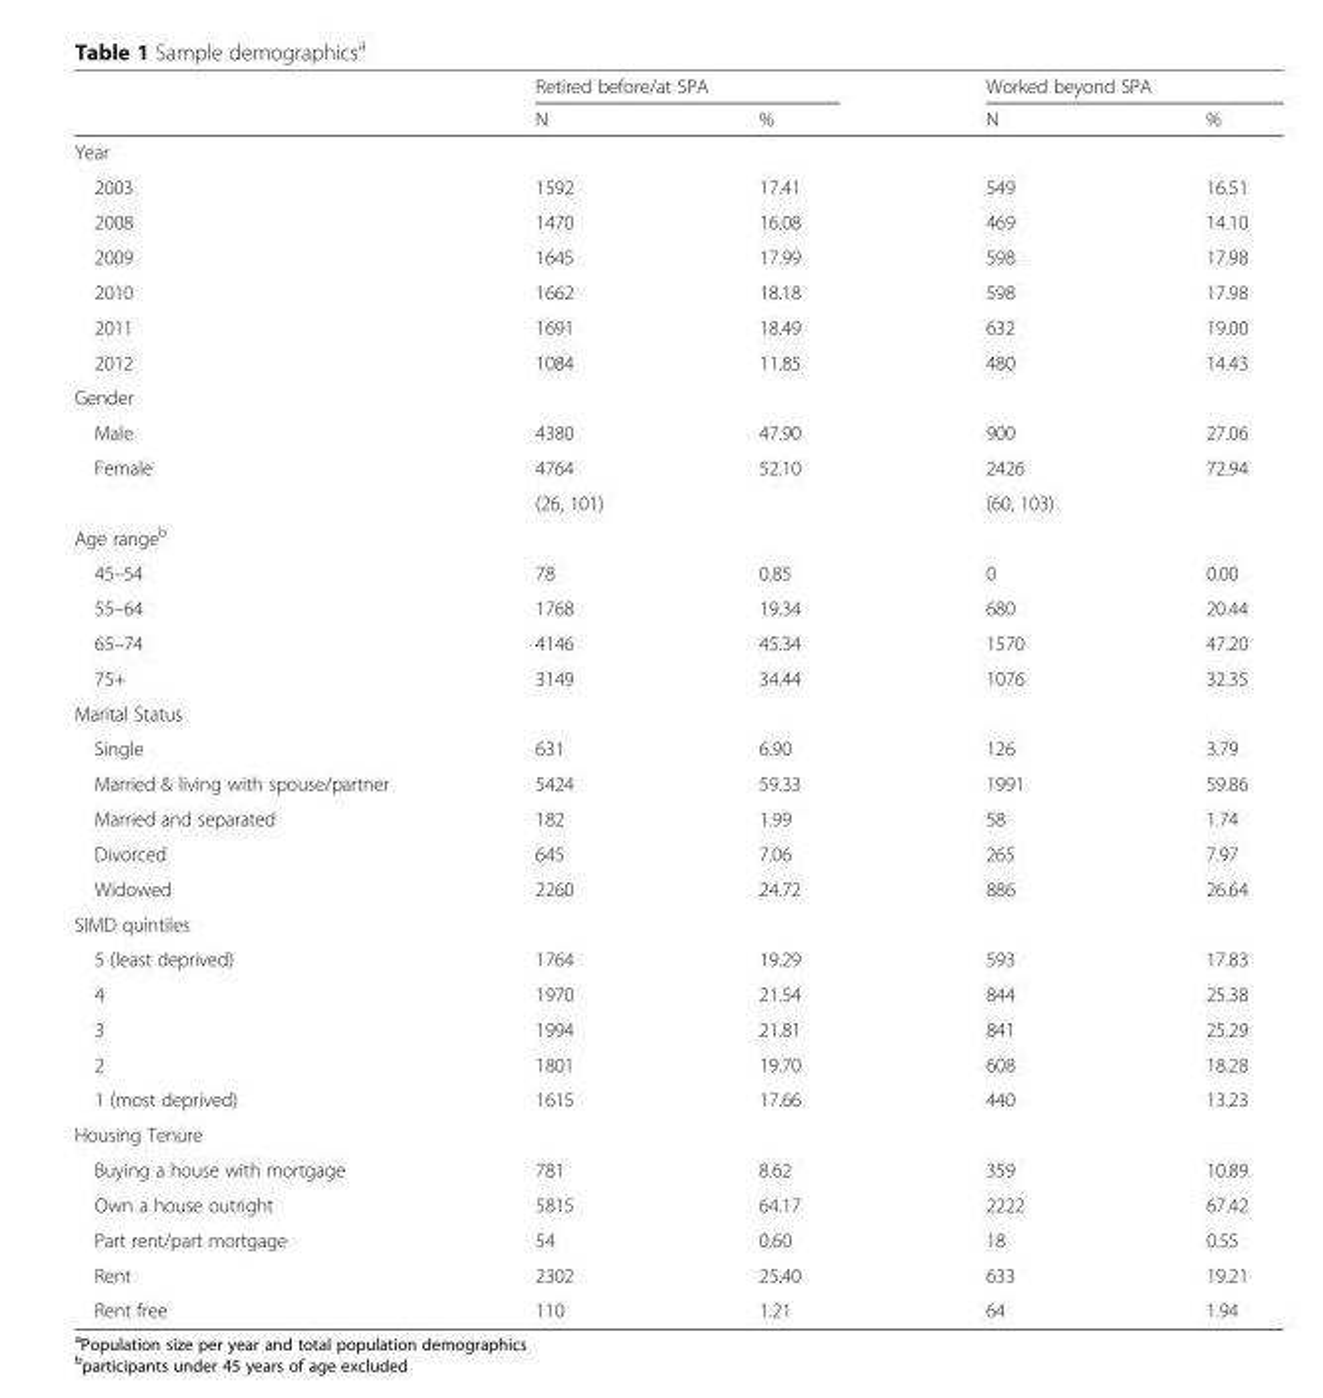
<table><thead><tr><td rowspan="2"></td><td colspan="2">Retired before/at SPA</td><td colspan="2">Worked beyond SPA</td></tr><tr><td>N</td><td>%</td><td>N</td><td>%</td></tr></thead><tbody><tr><td colspan="5">Year</td></tr><tr><td>2003</td><td>1592</td><td>17.41</td><td>549</td><td>16.51</td></tr><tr><td>2008</td><td>1470</td><td>16.08</td><td>469</td><td>14.10</td></tr><tr><td>2009</td><td>1645</td><td>17.99</td><td>598</td><td>17.98</td></tr><tr><td>2010</td><td>1662</td><td>18.18</td><td>598</td><td>17.98</td></tr><tr><td>2011</td><td>1691</td><td>18.49</td><td>632</td><td>19.00</td></tr><tr><td>2012</td><td>1084</td><td>11.85</td><td>480</td><td>14.43</td></tr><tr><td colspan="5">Gender</td></tr><tr><td>Male</td><td>4380</td><td>47.90</td><td>900</td><td>27.06</td></tr><tr><td rowspan="2">Female</td><td>4764</td><td>52.10</td><td>2426</td><td>72.94</td></tr><tr><td colspan="2">(26, 101)</td><td colspan="2">(60, 103)</td></tr><tr><td colspan="5">Age range<sup>b</sup></td></tr><tr><td>45–54</td><td>78</td><td>0.85</td><td>0</td><td>0.00</td></tr><tr><td>55–64</td><td>1768</td><td>19.34</td><td>680</td><td>20.44</td></tr><tr><td>65–74</td><td>4146</td><td>45.34</td><td>1570</td><td>47.20</td></tr><tr><td>75+</td><td>3149</td><td>34.44</td><td>1076</td><td>32.35</td></tr><tr><td colspan="5">Marital Status</td></tr><tr><td>Single</td><td>631</td><td>6.90</td><td>126</td><td>3.79</td></tr><tr><td>Married &amp; living with spouse/partner</td><td>5424</td><td>59.33</td><td>1991</td><td>59.86</td></tr><tr><td>Married and separated</td><td>182</td><td>1.99</td><td>58</td><td>1.74</td></tr><tr><td>Divorced</td><td>645</td><td>7.06</td><td>265</td><td>7.97</td></tr><tr><td>Widowed</td><td>2260</td><td>24.72</td><td>886</td><td>26.64</td></tr><tr><td colspan="5">SIMD quintiles</td></tr><tr><td>5 (least deprived)</td><td>1764</td><td>19.29</td><td>593</td><td>17.83</td></tr><tr><td>4</td><td>1970</td><td>21.54</td><td>844</td><td>25.38</td></tr><tr><td>3</td><td>1994</td><td>21.81</td><td>841</td><td>25.29</td></tr><tr><td>2</td><td>1801</td><td>19.70</td><td>608</td><td>18.28</td></tr><tr><td>1 (most deprived)</td><td>1615</td><td>17.66</td><td>440</td><td>13.23</td></tr><tr><td colspan="5">Housing Tenure</td></tr><tr><td>Buying a house with mortgage</td><td>781</td><td>8.62</td><td>359</td><td>10.89</td></tr><tr><td>Own a house outright</td><td>5815</td><td>64.17</td><td>2222</td><td>67.42</td></tr><tr><td>Part rent/part mortgage</td><td>54</td><td>0.60</td><td>18</td><td>0.55</td></tr><tr><td>Rent</td><td>2302</td><td>25.40</td><td>633</td><td>19.21</td></tr><tr><td>Rent free</td><td>110</td><td>1.21</td><td>64</td><td>1.94</td></tr></tbody></table>